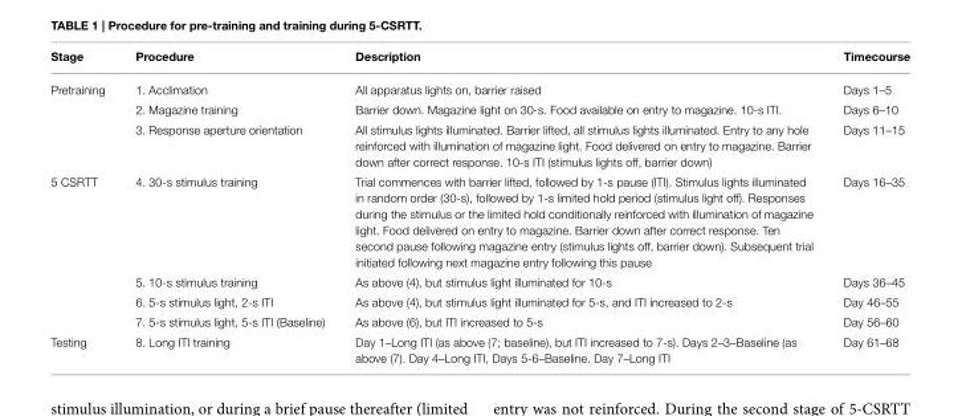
<table><thead><tr><td>Stage</td><td>Procedure</td><td>Description</td><td>Timecourse</td></tr></thead><tbody><tr><td rowspan="3">Pretraining</td><td>1. Acclimation</td><td>All apparatus lights on, barrier raised</td><td>Days 1–5</td></tr><tr><td>2. Magazine training</td><td>Barrier down. Magazine light on 30-s. Food available on entry to magazine. 10-s ITI.</td><td>Days 6–10</td></tr><tr><td>3. Response aperture orientation</td><td>All stimulus lights illuminated. Barrier lifted, all stimulus lights illuminated. Entry to any hole reinforced with illumination of magazine light. Food delivered on entry to magazine. Barrier down after correct response. 10-s ITI (stimulus lights off, barrier down)</td><td>Days 11–15</td></tr><tr><td rowspan="4">5 CSRTT</td><td>4. 30-s stimulus training</td><td>Trial commences with barrier lifted, followed by 1-s pause (ITI). Stimulus lights illuminated in random order (30-s), followed by 1-s limited hold period (stimulus light off). Responses during the stimulus or the limited hold conditionally reinforced with illumination of magazine light. Food delivered on entry to magazine. Barrier down after correct response. Ten second pause following magazine entry (stimulus lights off, barrier down). Subsequent trial initiated following next magazine entry following this pause</td><td>Days 16–35</td></tr><tr><td>5. 10-s stimulus training</td><td>As above (4), but stimulus light illuminated for 10-s</td><td>Days 36–45</td></tr><tr><td>6. 5-s stimulus light, 2-s ITI</td><td>As above (4), but stimulus light illuminated for 5-s, and ITI increased to 2-s</td><td>Day 46–55</td></tr><tr><td>7. 5-s stimulus light, 5-s ITI (Baseline)</td><td>As above (6), but ITI increased to 5-s</td><td>Day 56–60</td></tr><tr><td>Testing</td><td>8. Long ITI training</td><td>Day 1–Long ITI (as above (7; baseline), but ITI increased to 7-s). Days 2–3–Baseline (as above (7). Day 4–Long ITI, Days 5-6–Baseline. Day 7–Long ITI</td><td>Day 61–68</td></tr></tbody></table>